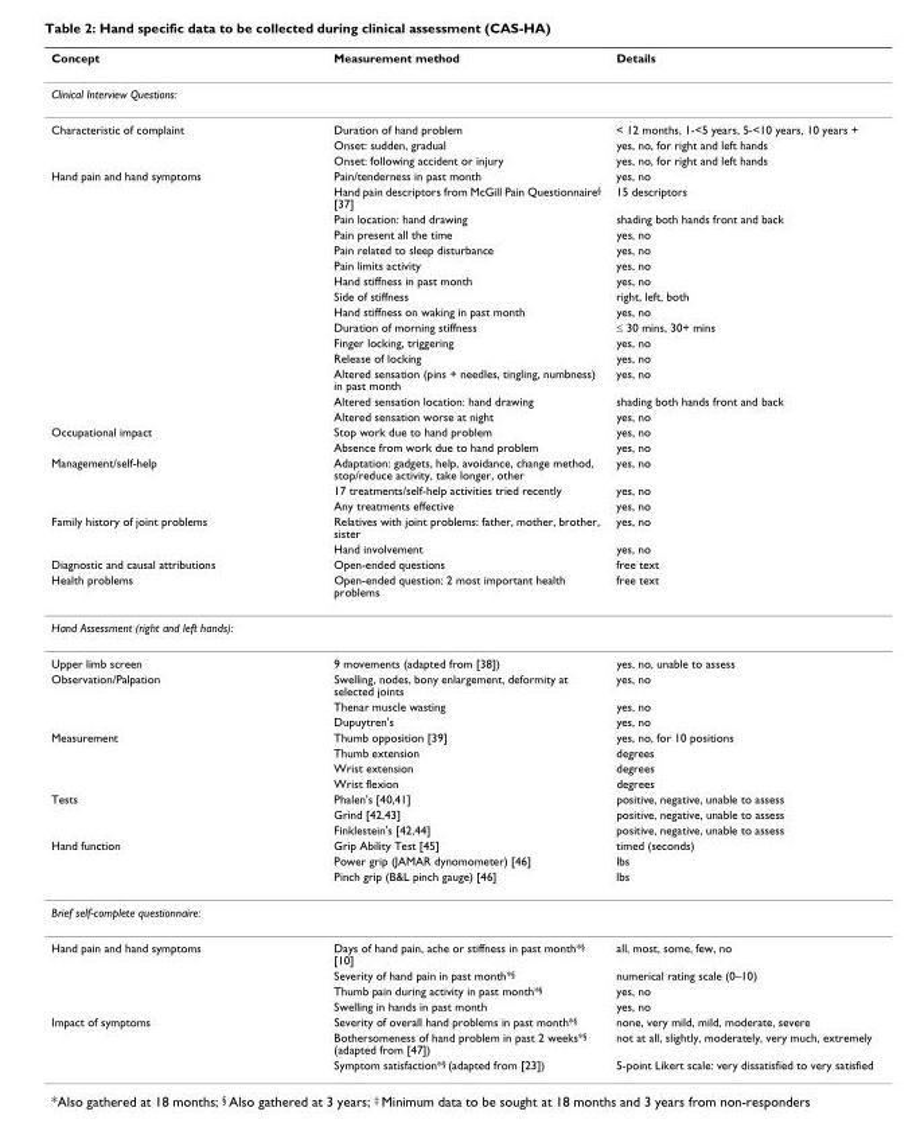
<table><thead><tr><td>Concept</td><td>Measurement method</td><td>Details</td></tr></thead><tbody><tr><td colspan="3">Clinical Interview Questions:</td></tr><tr><td rowspan="3">Characteristic of complaint</td><td>Duration of hand problem</td><td>&lt; 12 months, 1-&lt;5 years, 5-&lt;10 years, 10 years +</td></tr><tr><td>Onset: sudden, gradual</td><td>yes, no, for right and left hands</td></tr><tr><td>Onset: following accident or injury</td><td>yes, no, for right and left hands</td></tr><tr><td rowspan="15">Hand pain and hand symptoms</td><td>Pain/tenderness in past month</td><td>yes, no</td></tr><tr><td>Hand pain descriptors from McGill Pain Questionnaire<sup>§</sup> [37]</td><td>15 descriptors</td></tr><tr><td>Pain location: hand drawing</td><td>shading both hands front and back</td></tr><tr><td>Pain present all the time</td><td>yes, no</td></tr><tr><td>Pain related to sleep disturbance</td><td>yes, no</td></tr><tr><td>Pain limits activity</td><td>yes, no</td></tr><tr><td>Hand stiffness in past month</td><td>yes, no</td></tr><tr><td>Side of stiffness</td><td>right, left, both</td></tr><tr><td>Hand stiffness on waking in past month</td><td>yes, no</td></tr><tr><td>Duration of morning stiffness</td><td>≤ 30 mins, 30+ mins</td></tr><tr><td>Finger locking, triggering</td><td>yes, no</td></tr><tr><td>Release of locking</td><td>yes, no</td></tr><tr><td>Altered sensation (pins + needles, tingling, numbness) in past month</td><td>yes, no</td></tr><tr><td>Altered sensation location: hand drawing</td><td>shading both hands front and back</td></tr><tr><td>Altered sensation worse at night</td><td>yes, no</td></tr><tr><td rowspan="2">Occupational impact</td><td>Stop work due to hand problem</td><td>yes, no</td></tr><tr><td>Absence from work due to hand problem</td><td>yes, no</td></tr><tr><td rowspan="3">Management/self-help</td><td>Adaptation: gadgets, help, avoidance, change method, stop/reduce activity, take longer, other</td><td>yes, no</td></tr><tr><td>17 treatments/self-help activities tried recently</td><td>yes, no</td></tr><tr><td>Any treatments effective</td><td>yes, no</td></tr><tr><td rowspan="2">Family history of joint problems</td><td>Relatives with joint problems: father, mother, brother, sister</td><td>yes, no</td></tr><tr><td>Hand involvement</td><td>yes, no</td></tr><tr><td>Diagnostic and causal attributions</td><td>Open-ended questions</td><td>free text</td></tr><tr><td>Health problems</td><td>Open-ended question: 2 most important health problems</td><td>free text</td></tr><tr><td colspan="3">Hand Assessment (right and left hands):</td></tr><tr><td>Upper limb screen</td><td>9 movements (adapted from [38])</td><td>yes, no, unable to assess</td></tr><tr><td rowspan="3">Observation/Palpation</td><td>Swelling, nodes, bony enlargement, deformity at selected joints</td><td>yes, no</td></tr><tr><td>Thenar muscle wasting</td><td>yes, no</td></tr><tr><td>Dupuytren&#x27;s</td><td>yes, no</td></tr><tr><td rowspan="4">Measurement</td><td>Thumb opposition [39]</td><td>yes, no, for 10 positions</td></tr><tr><td>Thumb extension</td><td>degrees</td></tr><tr><td>Wrist extension</td><td>degrees</td></tr><tr><td>Wrist flexion</td><td>degrees</td></tr><tr><td rowspan="3">Tests</td><td>Phalen&#x27;s [40,41]</td><td>positive, negative, unable to assess</td></tr><tr><td>Grind [42,43]</td><td>positive, negative, unable to assess</td></tr><tr><td>Finklestein&#x27;s [42,44]</td><td>positive, negative, unable to assess</td></tr><tr><td rowspan="3">Hand function</td><td>Grip Ability Test [45]</td><td>timed (seconds)</td></tr><tr><td>Power grip (JAMAR dynomometer) [46]</td><td>lbs</td></tr><tr><td>Pinch grip (B&amp;L pinch gauge) [46]</td><td>lbs</td></tr><tr><td colspan="3">Brief self-complete questionnaire:</td></tr><tr><td rowspan="4">Hand pain and hand symptoms</td><td>Days of hand pain, ache or stiffness in past month*<sup>§</sup> [10]</td><td>all, most, some, few, no</td></tr><tr><td>Severity of hand pain in past month*<sup>§</sup></td><td>numerical rating scale (0–10)</td></tr><tr><td>Thumb pain during activity in past month*<sup>§</sup></td><td>yes, no</td></tr><tr><td>Swelling in hands in past month</td><td>yes, no</td></tr><tr><td rowspan="3">Impact of symptoms</td><td>Severity of overall hand problems in past month*<sup>§</sup></td><td>none, very mild, mild, moderate, severe</td></tr><tr><td>Bothersomeness of hand problem in past 2 weeks*<sup>§</sup> (adapted from [47])</td><td>not at all, slightly, moderately, very much, extremely</td></tr><tr><td>Symptom satisfaction*<sup>§</sup> (adapted from [23])</td><td>5-point Likert scale: very dissatisfied to very satisfied</td></tr></tbody></table>